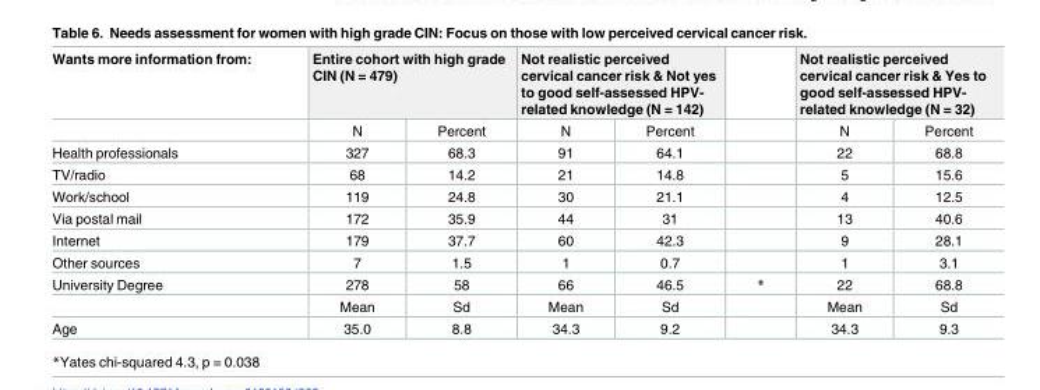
<table><thead><tr><td rowspan="2">Wants more information from:</td><td colspan="2">Entire cohort with high grade CIN (N = 479)</td><td colspan="2">Not realistic perceived cervical cancer risk &amp; Not yes to good self-assessed HPV- related knowledge (N = 142)</td><td rowspan="2"></td><td colspan="2">Not realistic perceived cervical cancer risk &amp; Yes to good self-assessed HPV- related knowledge (N = 32)</td></tr><tr><td>N</td><td>Percent</td><td>N</td><td>Percent</td><td>N</td><td>Percent</td></tr></thead><tbody><tr><td>Health professionals</td><td>327</td><td>68.3</td><td>91</td><td>64.1</td><td></td><td>22</td><td>68.8</td></tr><tr><td>TV/radio</td><td>68</td><td>14.2</td><td>21</td><td>14.8</td><td></td><td>5</td><td>15.6</td></tr><tr><td>Work/school</td><td>119</td><td>24.8</td><td>30</td><td>21.1</td><td></td><td>4</td><td>12.5</td></tr><tr><td>Via postal mail</td><td>172</td><td>35.9</td><td>44</td><td>31</td><td></td><td>13</td><td>40.6</td></tr><tr><td>Internet</td><td>179</td><td>37.7</td><td>60</td><td>42.3</td><td></td><td>9</td><td>28.1</td></tr><tr><td>Other sources</td><td>7</td><td>1.5</td><td>1</td><td>0.7</td><td></td><td>1</td><td>3.1</td></tr><tr><td rowspan="2">University Degree</td><td>278</td><td>58</td><td>66</td><td>46.5</td><td>*</td><td>22</td><td>68.8</td></tr><tr><td>Mean</td><td>Sd</td><td>Mean</td><td>Sd</td><td></td><td>Mean</td><td>Sd</td></tr><tr><td>Age</td><td>35.0</td><td>8.8</td><td>34.3</td><td>9.2</td><td></td><td>34.3</td><td>9.3</td></tr></tbody></table>